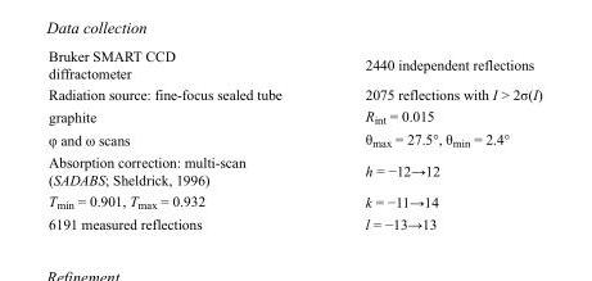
<table><tbody><tr><td>Bruker SMART CCD diffractometer</td><td>2440 independent reflections</td></tr><tr><td>Radiation source: fine-focus sealed tube</td><td>2075 reflections with I &gt; 2σ(I)</td></tr><tr><td>graphite</td><td>R<sub>int</sub> = 0.015</td></tr><tr><td>φ and ω scans</td><td>θ<sub>max</sub> = 27.5°, θ<sub>min</sub> = 2.4°</td></tr><tr><td>Absorption correction: multi-scan (SADABS; Sheldrick, 1996)</td><td>h = −12→12</td></tr><tr><td>T<sub>min</sub> = 0.901, T<sub>max</sub> = 0.932</td><td>k = −11→14</td></tr><tr><td>6191 measured reflections</td><td>l = −13→13</td></tr></tbody></table>